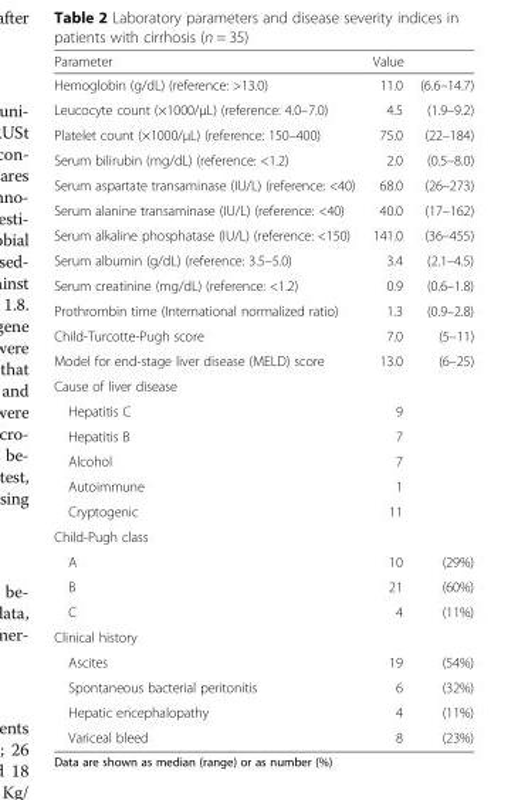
<table><thead><tr><td rowspan="2">Parameter Hemoglobin (g/dL) (reference: &gt;13.0)</td><td colspan="2">Value</td></tr><tr><td>11.0</td><td>(6.6–14.7)</td></tr></thead><tbody><tr><td>Leucocyte count (×1000/μL) (reference: 4.0–7.0)</td><td>4.5</td><td>(1.9–9.2)</td></tr><tr><td>Platelet count (×1000/μL) (reference: 150–400)</td><td>75.0</td><td>(22–184)</td></tr><tr><td>Serum bilirubin (mg/dL) (reference: &lt;1.2)</td><td>2.0</td><td>(0.5–8.0)</td></tr><tr><td>Serum aspartate transaminase (IU/L) (reference: &lt;40)</td><td>68.0</td><td>(26–273)</td></tr><tr><td>Serum alanine transaminase (IU/L) (reference: &lt;40)</td><td>40.0</td><td>(17–162)</td></tr><tr><td>Serum alkaline phosphatase (IU/L) (reference: &lt;150)</td><td>141.0</td><td>(36–455)</td></tr><tr><td>Serum albumin (g/dL) (reference: 3.5–5.0)</td><td>3.4</td><td>(2.1–4.5)</td></tr><tr><td>Serum creatinine (mg/dL) (reference: &lt;1.2)</td><td>0.9</td><td>(0.6–1.8)</td></tr><tr><td>Prothrombin time (International normalized ratio)</td><td>1.3</td><td>(0.9–2.8)</td></tr><tr><td>Child-Turcotte-Pugh score</td><td>7.0</td><td>(5–11)</td></tr><tr><td>Model for end-stage liver disease (MELD) score</td><td>13.0</td><td>(6–25)</td></tr><tr><td colspan="3">Cause of liver disease</td></tr><tr><td>Hepatitis C</td><td>9</td><td></td></tr><tr><td>Hepatitis B</td><td>7</td><td></td></tr><tr><td>Alcohol</td><td>7</td><td></td></tr><tr><td>Autoimmune</td><td>1</td><td></td></tr><tr><td>Cryptogenic</td><td>11</td><td></td></tr><tr><td colspan="3">Child-Pugh class</td></tr><tr><td>A</td><td>10</td><td>(29%)</td></tr><tr><td>B</td><td>21</td><td>(60%)</td></tr><tr><td>C</td><td>4</td><td>(11%)</td></tr><tr><td colspan="3">Clinical history</td></tr><tr><td>Ascites</td><td>19</td><td>(54%)</td></tr><tr><td>Spontaneous bacterial peritonitis</td><td>6</td><td>(32%)</td></tr><tr><td>Hepatic encephalopathy</td><td>4</td><td>(11%)</td></tr><tr><td>Variceal bleed</td><td>8</td><td>(23%)</td></tr></tbody></table>